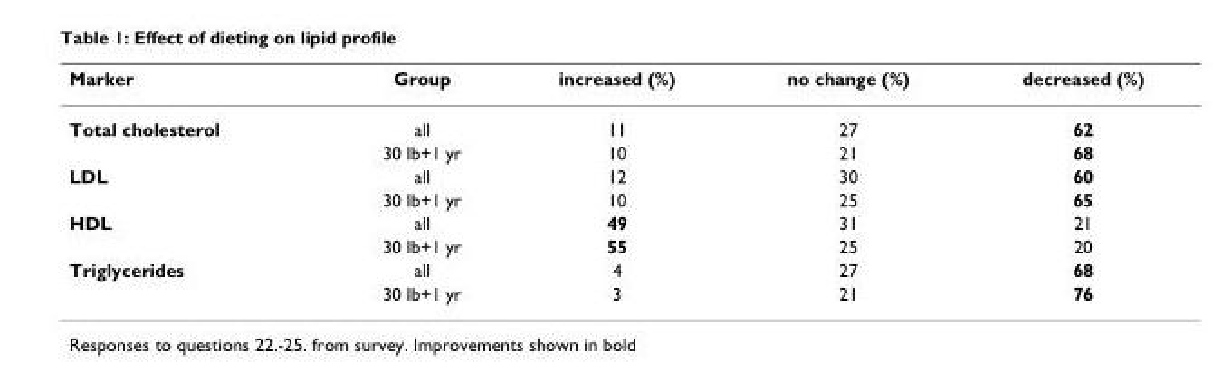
<table><thead><tr><td>Marker</td><td>Group</td><td>increased (%)</td><td>no change (%)</td><td>decreased (%)</td></tr></thead><tbody><tr><td rowspan="2">Total cholesterol</td><td>all</td><td>11</td><td>27</td><td>62</td></tr><tr><td>30 lb+1 yr</td><td>10</td><td>21</td><td>68</td></tr><tr><td rowspan="2">LDL</td><td>all</td><td>12</td><td>30</td><td>60</td></tr><tr><td>30 lb+1 yr</td><td>10</td><td>25</td><td>65</td></tr><tr><td rowspan="2">HDL</td><td>all</td><td>49</td><td>31</td><td>21</td></tr><tr><td>30 lb+1 yr</td><td>55</td><td>25</td><td>20</td></tr><tr><td rowspan="2">Triglycerides</td><td>all</td><td>4</td><td>27</td><td>68</td></tr><tr><td>30 lb+1 yr</td><td>3</td><td>21</td><td>76</td></tr></tbody></table>